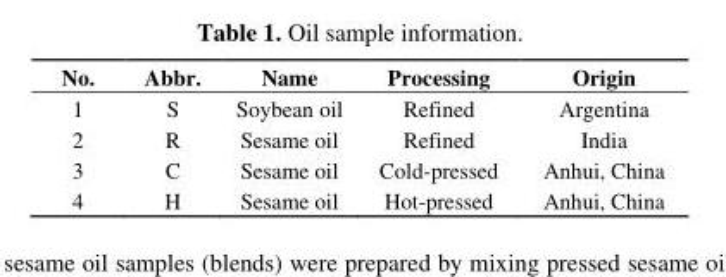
<table><thead><tr><td>No.</td><td>Abbr.</td><td>Name</td><td>Processing</td><td>Origin</td></tr></thead><tbody><tr><td>1</td><td>S</td><td>Soybean oil</td><td>Refined</td><td>Argentina</td></tr><tr><td>2</td><td>R</td><td>Sesame oil</td><td>Refined</td><td>India</td></tr><tr><td>3</td><td>C</td><td>Sesame oil</td><td>Cold-pressed</td><td>Anhui, China</td></tr><tr><td>4</td><td>H</td><td>Sesame oil</td><td>Hot-pressed</td><td>Anhui, China</td></tr></tbody></table>